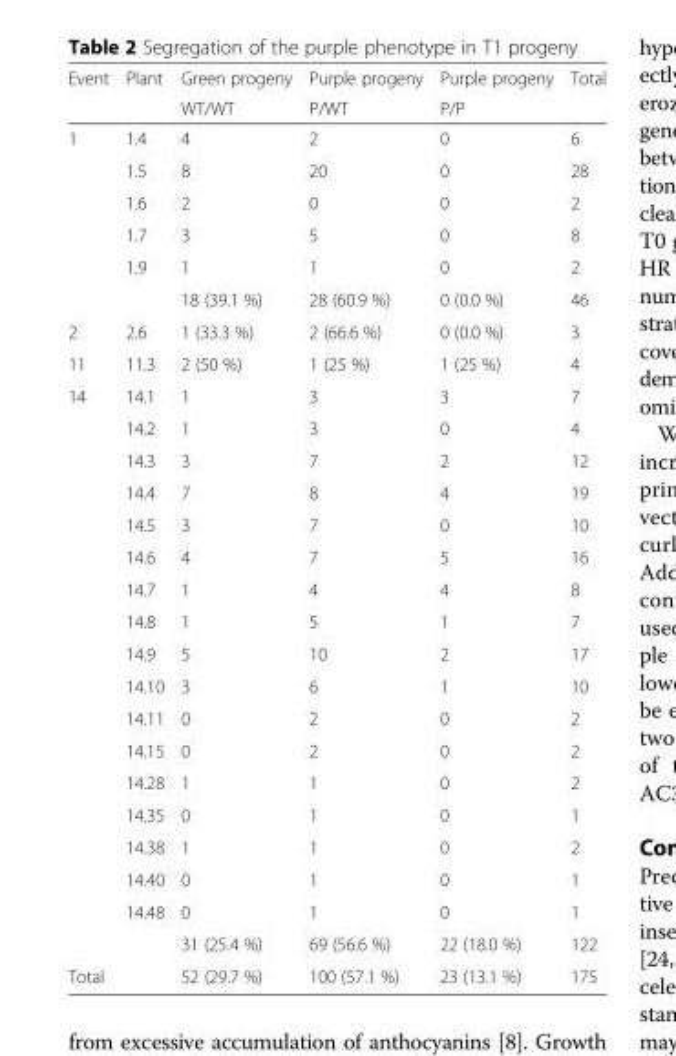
<table><thead><tr><td rowspan="2">Event</td><td rowspan="2">Plant</td><td rowspan="2">Green progeny WT/WT</td><td rowspan="2">Purple progeny P/WT</td><td rowspan="2">Purple progeny P/P</td><td rowspan="2">Total</td></tr><tr></tr></thead><tbody><tr><td rowspan="6">1</td><td>1.4</td><td>4</td><td>2</td><td>0</td><td>6</td></tr><tr><td>1.5</td><td>8</td><td>20</td><td>0</td><td>28</td></tr><tr><td>1.6</td><td>2</td><td>0</td><td>0</td><td>2</td></tr><tr><td>1.7</td><td>3</td><td>5</td><td>0</td><td>8</td></tr><tr><td>1.9</td><td>1</td><td>1</td><td>0</td><td>2</td></tr><tr><td></td><td>18 (39.1 %)</td><td>28 (60.9 %)</td><td>0 (0.0 %)</td><td>46</td></tr><tr><td>2</td><td>2.6</td><td>1 (33.3 %)</td><td>2 (66.6 %)</td><td>0 (0.0 %)</td><td>3</td></tr><tr><td>11</td><td>11.3</td><td>2 (50 %)</td><td>1 (25 %)</td><td>1 (25 %)</td><td>4</td></tr><tr><td rowspan="18">14</td><td>14.1</td><td>1</td><td>3</td><td>3</td><td>7</td></tr><tr><td>14.2</td><td>1</td><td>3</td><td>0</td><td>4</td></tr><tr><td>14.3</td><td>3</td><td>7</td><td>2</td><td>12</td></tr><tr><td>14.4</td><td>7</td><td>8</td><td>4</td><td>19</td></tr><tr><td>14.5</td><td>3</td><td>7</td><td>0</td><td>10</td></tr><tr><td>14.6</td><td>4</td><td>7</td><td>5</td><td>16</td></tr><tr><td>14.7</td><td>1</td><td>4</td><td>4</td><td>8</td></tr><tr><td>14.8</td><td>1</td><td>5</td><td>1</td><td>7</td></tr><tr><td>14.9</td><td>5</td><td>10</td><td>2</td><td>17</td></tr><tr><td>14.10</td><td>3</td><td>6</td><td>1</td><td>10</td></tr><tr><td>14.11</td><td>0</td><td>2</td><td>0</td><td>2</td></tr><tr><td>14.15</td><td>0</td><td>2</td><td>0</td><td>2</td></tr><tr><td>14.28</td><td>1</td><td>1</td><td>0</td><td>2</td></tr><tr><td>14.35</td><td>0</td><td>1</td><td>0</td><td>1</td></tr><tr><td>14.38</td><td>1</td><td>1</td><td>0</td><td>2</td></tr><tr><td>14.40</td><td>0</td><td>1</td><td>0</td><td>1</td></tr><tr><td>14.48</td><td>0</td><td>1</td><td>0</td><td>1</td></tr><tr><td></td><td>31 (25.4 %)</td><td>69 (56.6 %)</td><td>22 (18.0 %)</td><td>122</td></tr><tr><td>Total</td><td></td><td>52 (29.7 %)</td><td>100 (57.1 %)</td><td>23 (13.1 %)</td><td>175</td></tr></tbody></table>